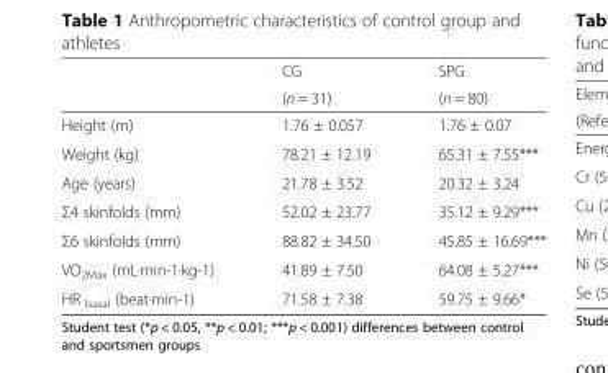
<table><thead><tr><td rowspan="2"></td><td rowspan="2">CG (n = 31)</td><td rowspan="2">SPG (n = 80)</td></tr><tr></tr></thead><tbody><tr><td>Height (m)</td><td>1.76 ± 0.057</td><td>1.76 ± 0.07</td></tr><tr><td>Weight (kg)</td><td>78.21 ± 12.19</td><td>65.31 ± 7.55***</td></tr><tr><td>Age (years)</td><td>21.78 ± 3.52</td><td>20.32 ± 3.24</td></tr><tr><td>Σ4 skinfolds (mm)</td><td>52.02 ± 23.77</td><td>35.12 ± 9.29***</td></tr><tr><td>Σ6 skinfolds (mm)</td><td>88.82 ± 34.50</td><td>45.85 ± 16.69***</td></tr><tr><td>VO<sub>2Máx</sub> (mL·min-1·kg-1)</td><td>41.89 ± 7.50</td><td>64.08 ± 5.27***</td></tr><tr><td>HR <sub>basal</sub> (beat·min-1)</td><td>71.58 ± 7.38</td><td>59.75 ± 9.66*</td></tr></tbody></table>